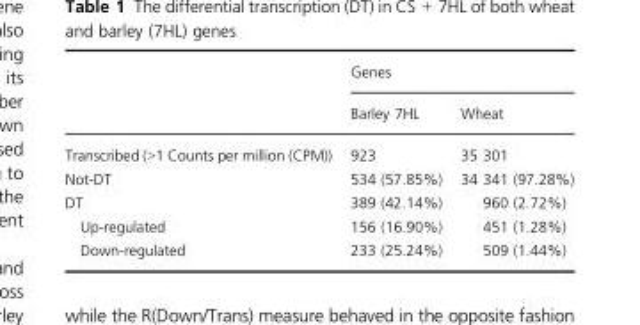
<table><thead><tr><td rowspan="2"></td><td colspan="2">Genes</td></tr><tr><td>Barley 7HL</td><td>Wheat</td></tr></thead><tbody><tr><td>Transcribed (&gt;1 Counts per million (CPM))</td><td>923</td><td>35 301</td></tr><tr><td>Not-DT</td><td>534 (57.85%)</td><td>34 341 (97.28%)</td></tr><tr><td>DT</td><td>389 (42.14%)</td><td>960 (2.72%)</td></tr><tr><td>Up-regulated</td><td>156 (16.90%)</td><td>451 (1.28%)</td></tr><tr><td>Down-regulated</td><td>233 (25.24%)</td><td>509 (1.44%)</td></tr></tbody></table>